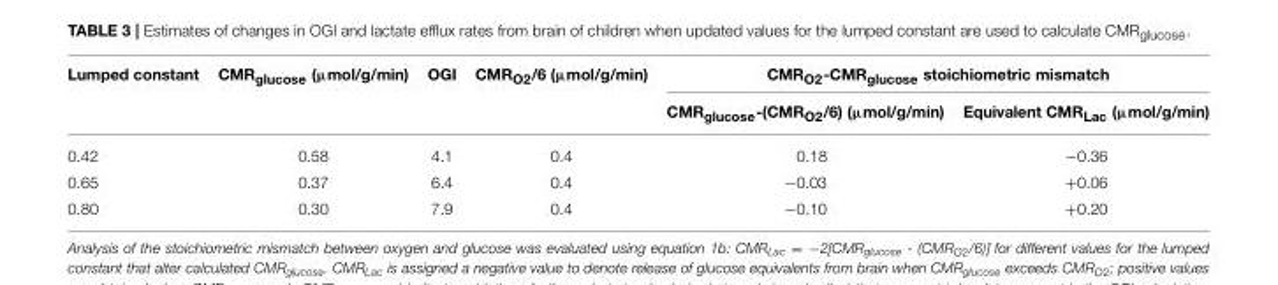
<table><thead><tr><td rowspan="2">Lumped constant</td><td rowspan="2">CMR<sub>glucose</sub> (µmol/g/min)</td><td rowspan="2">OGI</td><td rowspan="2">CMR<sub>O2</sub>/6 (µmol/g/min)</td><td colspan="2">CMR<sub>O2</sub>-CMR<sub>glucose</sub> stoichiometric mismatch</td></tr><tr><td>CMR<sub>glucose</sub>-(CMR<sub>O2</sub>/6) (µmol/g/min)</td><td>Equivalent CMR<sub>Lac</sub> (µmol/g/min)</td></tr></thead><tbody><tr><td>0.42</td><td>0.58</td><td>4.1</td><td>0.4</td><td>0.18</td><td>−0.36</td></tr><tr><td>0.65</td><td>0.37</td><td>6.4</td><td>0.4</td><td>−0.03</td><td>+0.06</td></tr><tr><td>0.80</td><td>0.30</td><td>7.9</td><td>0.4</td><td>−0.10</td><td>+0.20</td></tr></tbody></table>